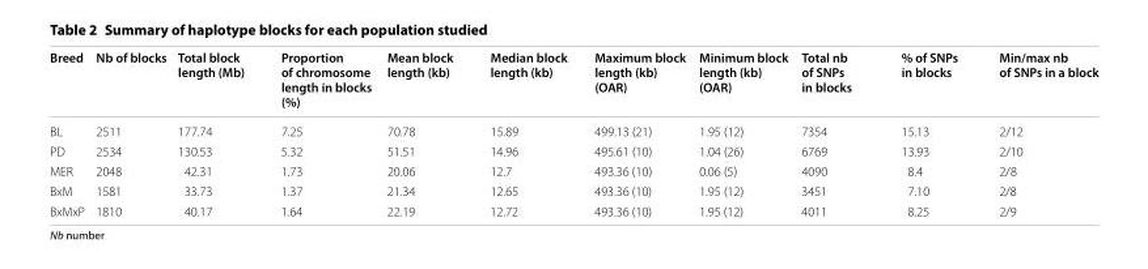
<table><thead><tr><td>Breed</td><td>Nb of blocks</td><td>Total block length (Mb)</td><td>Proportion of chromosome length in blocks (%)</td><td>Mean block length (kb)</td><td>Median block length (kb)</td><td>Maximum block length (kb) (OAR)</td><td>Minimum block length (kb) (OAR)</td><td>Total nb of SNPs in blocks</td><td>% of SNPs in blocks</td><td>Min/max nb of SNPs in a block</td></tr></thead><tbody><tr><td>BL</td><td>2511</td><td>177.74</td><td>7.25</td><td>70.78</td><td>15.89</td><td>499.13 (21)</td><td>1.95 (12)</td><td>7354</td><td>15.13</td><td>2/12</td></tr><tr><td>PD</td><td>2534</td><td>130.53</td><td>5.32</td><td>51.51</td><td>14.96</td><td>495.61 (10)</td><td>1.04 (26)</td><td>6769</td><td>13.93</td><td>2/10</td></tr><tr><td>MER</td><td>2048</td><td>42.31</td><td>1.73</td><td>20.06</td><td>12.7</td><td>493.36 (10)</td><td>0.06 (5)</td><td>4090</td><td>8.4</td><td>2/8</td></tr><tr><td>BxM</td><td>1581</td><td>33.73</td><td>1.37</td><td>21.34</td><td>12.65</td><td>493.36 (10)</td><td>1.95 (12)</td><td>3451</td><td>7.10</td><td>2/8</td></tr><tr><td>BxMxP</td><td>1810</td><td>40.17</td><td>1.64</td><td>22.19</td><td>12.72</td><td>493.36 (10)</td><td>1.95 (12)</td><td>4011</td><td>8.25</td><td>2/9</td></tr></tbody></table>